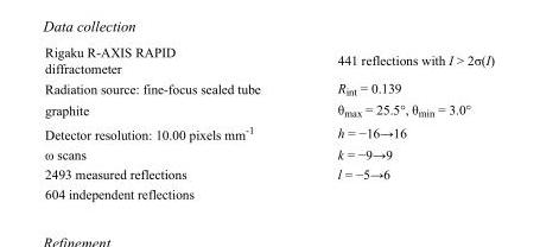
<table><tbody><tr><td>Rigaku R-AXIS RAPID diffractometer</td><td>441 reflections with I &gt; 2σ(I)</td></tr><tr><td>Radiation source: fine-focus sealed tube</td><td>R<sub>int</sub> = 0.139</td></tr><tr><td>graphite</td><td>θ<sub>max</sub> = 25.5°, θ<sub>min</sub> = 3.0°</td></tr><tr><td>Detector resolution: 10.00 pixels mm<sup>-1</sup></td><td>h = −16→16</td></tr><tr><td>ω scans</td><td>k = −9→9</td></tr><tr><td>2493 measured reflections</td><td>l = −5→6</td></tr><tr><td>604 independent reflections</td><td></td></tr></tbody></table>